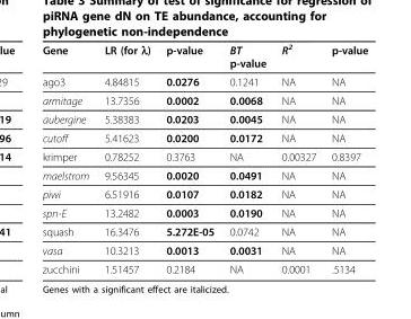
<table><thead><tr><td>Gene</td><td>LR (for λ)</td><td>p-value</td><td>BT p-value</td><td>R<sup>2</sup></td><td>p-value</td></tr></thead><tbody><tr><td>ago3</td><td>4.84815</td><td>0.0276</td><td>0.1241</td><td>NA</td><td>NA</td></tr><tr><td>armitage</td><td>13.7356</td><td>0.0002</td><td>0.0068</td><td>NA</td><td>NA</td></tr><tr><td>aubergine</td><td>5.38383</td><td>0.0203</td><td>0.0045</td><td>NA</td><td>NA</td></tr><tr><td>cutoff</td><td>5.41623</td><td>0.0200</td><td>0.0172</td><td>NA</td><td>NA</td></tr><tr><td>krimper</td><td>0.78252</td><td>0.3763</td><td>NA</td><td>0.00327</td><td>0.8397</td></tr><tr><td>maelstrom</td><td>9.56345</td><td>0.0020</td><td>0.0491</td><td>NA</td><td>NA</td></tr><tr><td>piwi</td><td>6.51916</td><td>0.0107</td><td>0.0182</td><td>NA</td><td>NA</td></tr><tr><td>spn-E</td><td>13.2482</td><td>0.0003</td><td>0.0190</td><td>NA</td><td>NA</td></tr><tr><td>squash</td><td>16.3476</td><td>5.272E-05</td><td>0.0742</td><td>NA</td><td>NA</td></tr><tr><td>vasa</td><td>10.3213</td><td>0.0013</td><td>0.0031</td><td>NA</td><td>NA</td></tr><tr><td>zucchini</td><td>1.51457</td><td>0.2184</td><td>NA</td><td>0.0001</td><td>.5134</td></tr></tbody></table>